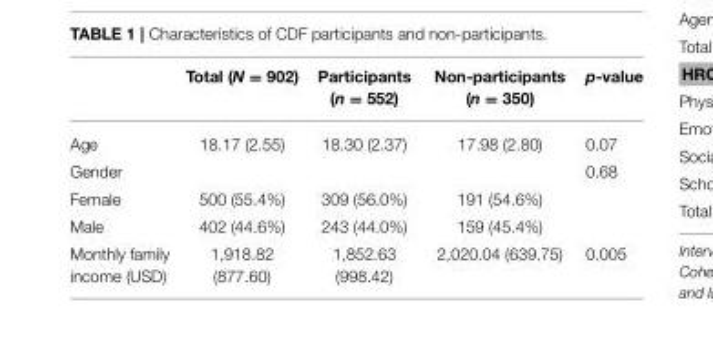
<table><thead><tr><td></td><td>Total (N = 902)</td><td>Participants (n = 552)</td><td>Non-participants (n = 350)</td><td>p-value</td></tr></thead><tbody><tr><td>Age</td><td>18.17 (2.55)</td><td>18.30 (2.37)</td><td>17.98 (2.80)</td><td>0.07</td></tr><tr><td>Gender</td><td></td><td></td><td></td><td>0.68</td></tr><tr><td>Female</td><td>500 (55.4%)</td><td>309 (56.0%)</td><td>191 (54.6%)</td><td></td></tr><tr><td>Male</td><td>402 (44.6%)</td><td>243 (44.0%)</td><td>159 (45.4%)</td><td></td></tr><tr><td>Monthly family income (USD)</td><td>1,918.82 (877.60)</td><td>1,852.63 (998.42)</td><td>2,020.04 (639.75)</td><td>0.005</td></tr></tbody></table>